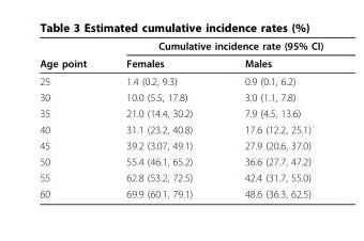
<table><thead><tr><td rowspan="2">Age point</td><td colspan="2">Cumulative incidence rate (95% CI)</td></tr><tr><td>Females</td><td>Males</td></tr></thead><tbody><tr><td>25</td><td>1.4 (0.2, 9.3)</td><td>0.9 (0.1, 6.2)</td></tr><tr><td>30</td><td>10.0 (5.5, 17.8)</td><td>3.0 (1.1, 7.8)</td></tr><tr><td>35</td><td>21.0 (14.4, 30.2)</td><td>7.9 (4.5, 13.6)</td></tr><tr><td>40</td><td>31.1 (23.2, 40.8)</td><td>17.6 (12.2, 25.1)</td></tr><tr><td>45</td><td>39.2 (3.07, 49.1)</td><td>27.9 (20.6, 37.0)</td></tr><tr><td>50</td><td>55.4 (46.1, 65.2)</td><td>36.6 (27.7, 47.2)</td></tr><tr><td>55</td><td>62.8 (53.2, 72.5)</td><td>42.4 (31.7, 55.0)</td></tr><tr><td>60</td><td>69.9 (60.1, 79.1)</td><td>48.6 (36.3, 62.5)</td></tr></tbody></table>